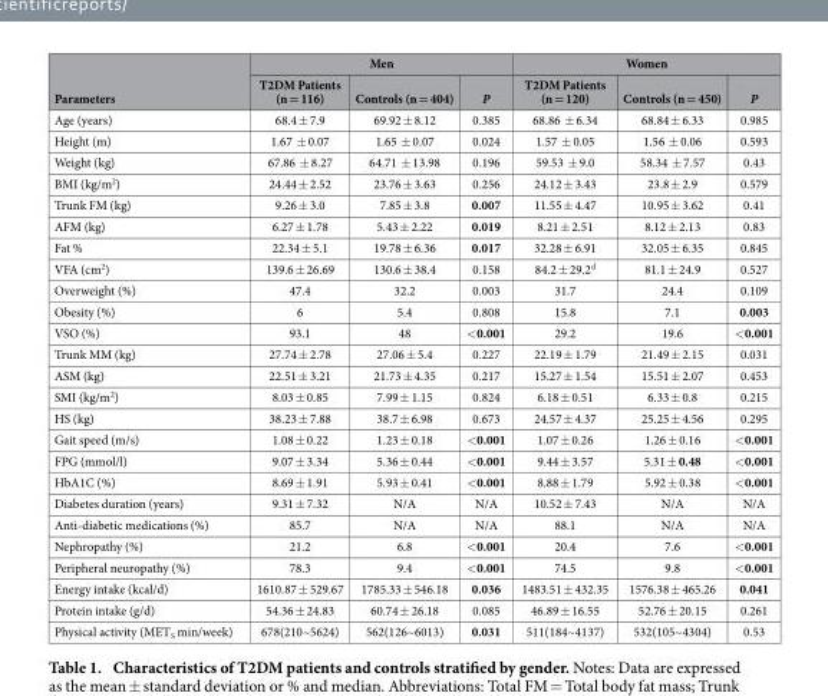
<table><thead><tr><td rowspan="2">Parameters</td><td colspan="3">Men</td><td colspan="3">Women</td></tr><tr><td>T2DM Patients (n = 116)</td><td>Controls (n = 404)</td><td>P</td><td>T2DM Patients (n = 120)</td><td>Controls (n = 450)</td><td>P</td></tr></thead><tbody><tr><td>Age (years)</td><td>68.4 ± 7.9</td><td>69.92 ± 8.12</td><td>0.385</td><td>68.86 ± 6.34</td><td>68.84 ± 6.33</td><td>0.985</td></tr><tr><td>Height (m)</td><td>1.67 ± 0.07</td><td>1.65 ± 0.07</td><td>0.024</td><td>1.57 ± 0.05</td><td>1.56 ± 0.06</td><td>0.593</td></tr><tr><td>Weight (kg)</td><td>67.86 ± 8.27</td><td>64.71 ± 13.98</td><td>0.196</td><td>59.53 ± 9.0</td><td>58.34 ± 7.57</td><td>0.43</td></tr><tr><td>BMI (kg/m<sup>2</sup>)</td><td>24.44 ± 2.52</td><td>23.76 ± 3.63</td><td>0.256</td><td>24.12 ± 3.43</td><td>23.8 ± 2.9</td><td>0.579</td></tr><tr><td>Trunk FM (kg)</td><td>9.26 ± 3.0</td><td>7.85 ± 3.8</td><td>0.007</td><td>11.55 ± 4.47</td><td>10.95 ± 3.62</td><td>0.41</td></tr><tr><td>AFM (kg)</td><td>6.27 ± 1.78</td><td>5.43 ± 2.22</td><td>0.019</td><td>8.21 ± 2.51</td><td>8.12 ± 2.13</td><td>0.83</td></tr><tr><td>Fat %</td><td>22.34 ± 5.1</td><td>19.78 ± 6.36</td><td>0.017</td><td>32.28 ± 6.91</td><td>32.05 ± 6.35</td><td>0.845</td></tr><tr><td>VFA (cm<sup>2</sup>)</td><td>139.6 ± 26.69</td><td>130.6 ± 38.4</td><td>0.158</td><td>84.2 ± 29.2<sup>d</sup></td><td>81.1 ± 24.9</td><td>0.527</td></tr><tr><td>Overweight (%)</td><td>47.4</td><td>32.2</td><td>0.003</td><td>31.7</td><td>24.4</td><td>0.109</td></tr><tr><td>Obesity (%)</td><td>6</td><td>5.4</td><td>0.808</td><td>15.8</td><td>7.1</td><td>0.003</td></tr><tr><td>VSO (%)</td><td>93.1</td><td>48</td><td>&lt; 0.001</td><td>29.2</td><td>19.6</td><td>&lt; 0.001</td></tr><tr><td>Trunk MM (kg)</td><td>27.74 ± 2.78</td><td>27.06 ± 5.4</td><td>0.227</td><td>22.19 ± 1.79</td><td>21.49 ± 2.15</td><td>0.031</td></tr><tr><td>ASM (kg)</td><td>22.51 ± 3.21</td><td>21.73 ± 4.35</td><td>0.217</td><td>15.27 ± 1.54</td><td>15.51 ± 2.07</td><td>0.453</td></tr><tr><td>SMI (kg/m<sup>2</sup>)</td><td>8.03 ± 0.85</td><td>7.99 ± 1.15</td><td>0.824</td><td>6.18 ± 0.51</td><td>6.33 ± 0.8</td><td>0.215</td></tr><tr><td>HS (kg)</td><td>38.23 ± 7.88</td><td>38.7 ± 6.98</td><td>0.673</td><td>24.57 ± 4.37</td><td>25.25 ± 4.56</td><td>0.295</td></tr><tr><td>Gait speed (m/s)</td><td>1.08 ± 0.22</td><td>1.23 ± 0.18</td><td>&lt; 0.001</td><td>1.07 ± 0.26</td><td>1.26 ± 0.16</td><td>&lt; 0.001</td></tr><tr><td>FPG (mmol/l)</td><td>9.07 ± 3.34</td><td>5.36 ± 0.44</td><td>&lt; 0.001</td><td>9.44 ± 3.57</td><td>5.31 ± 0.48</td><td>&lt; 0.001</td></tr><tr><td>HbA1C (%)</td><td>8.69 ± 1.91</td><td>5.93 ± 0.41</td><td>&lt; 0.001</td><td>8.88 ± 1.79</td><td>5.92 ± 0.38</td><td>&lt; 0.001</td></tr><tr><td>Diabetes duration (years)</td><td>9.31 ± 7.32</td><td>N/A</td><td>N/A</td><td>10.52 ± 7.43</td><td>N/A</td><td>N/A</td></tr><tr><td>Anti-diabetic medications (%)</td><td>85.7</td><td>N/A</td><td>N/A</td><td>88.1</td><td>N/A</td><td>N/A</td></tr><tr><td>Nephropathy (%)</td><td>21.2</td><td>6.8</td><td>&lt; 0.001</td><td>20.4</td><td>7.6</td><td>&lt; 0.001</td></tr><tr><td>Peripheral neuropathy (%)</td><td>78.3</td><td>9.4</td><td>&lt; 0.001</td><td>74.5</td><td>9.8</td><td>&lt; 0.001</td></tr><tr><td>Energy intake (kcal/d)</td><td>1610.87 ± 529.67</td><td>1785.33 ± 546.18</td><td>0.036</td><td>1483.51 ± 432.35</td><td>1576.38 ± 465.26</td><td>0.041</td></tr><tr><td>Protein intake (g/d)</td><td>54.36 ± 24.83</td><td>60.74 ± 26.18</td><td>0.085</td><td>46.89 ± 16.55</td><td>52.76 ± 20.15</td><td>0.261</td></tr><tr><td>Physical activity (MET<sub>S</sub> min/week)</td><td>678(210~5624)</td><td>562(126~6013)</td><td>0.031</td><td>511(184~4137)</td><td>532(105~4304)</td><td>0.53</td></tr></tbody></table>